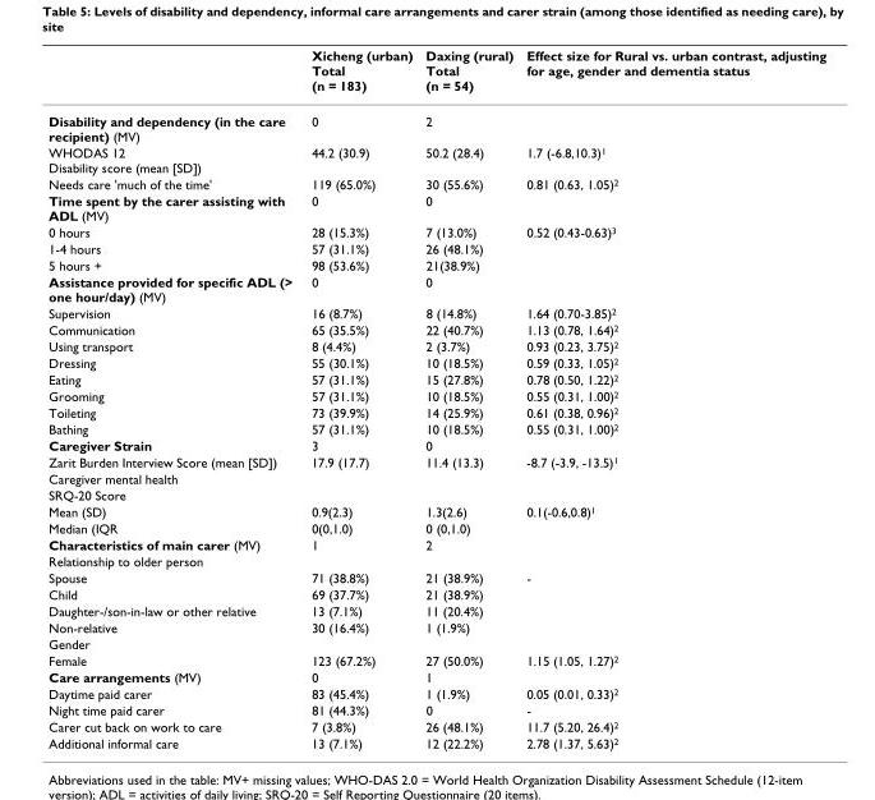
<table><thead><tr><td></td><td>Xicheng (urban) Total (n = 183)</td><td>Daxing (rural) Total (n = 54)</td><td>Effect size for Rural vs. urban contrast, adjusting for age, gender and dementia status</td></tr></thead><tbody><tr><td>Disability and dependency (in the care recipient) (MV)</td><td>0</td><td>2</td><td></td></tr><tr><td>WHODAS 12 Disability score (mean [SD])</td><td>44.2 (30.9)</td><td>50.2 (28.4)</td><td>1.7 (-6.8,10.3)<sup>1</sup></td></tr><tr><td>Needs care &#x27;much of the time&#x27;</td><td>119 (65.0%)</td><td>30 (55.6%)</td><td>0.81 (0.63, 1.05)<sup>2</sup></td></tr><tr><td>Time spent by the carer assisting with ADL (MV)</td><td>0</td><td>0</td><td></td></tr><tr><td>0 hours</td><td>28 (15.3%)</td><td>7 (13.0%)</td><td>0.52 (0.43-0.63)<sup>3</sup></td></tr><tr><td>1-4 hours</td><td>57 (31.1%)</td><td>26 (48.1%)</td><td></td></tr><tr><td>5 hours +</td><td>98 (53.6%)</td><td>21(38.9%)</td><td></td></tr><tr><td>Assistance provided for specific ADL (&gt; one hour/day) (MV)</td><td>0</td><td>0</td><td></td></tr><tr><td>Supervision</td><td>16 (8.7%)</td><td>8 (14.8%)</td><td>1.64 (0.70-3.85)<sup>2</sup></td></tr><tr><td>Communication</td><td>65 (35.5%)</td><td>22 (40.7%)</td><td>1.13 (0.78, 1.64)<sup>2</sup></td></tr><tr><td>Using transport</td><td>8 (4.4%)</td><td>2 (3.7%)</td><td>0.93 (0.23, 3.75)<sup>2</sup></td></tr><tr><td>Dressing</td><td>55 (30.1%)</td><td>10 (18.5%)</td><td>0.59 (0.33, 1.05)<sup>2</sup></td></tr><tr><td>Eating</td><td>57 (31.1%)</td><td>15 (27.8%)</td><td>0.78 (0.50, 1.22)<sup>2</sup></td></tr><tr><td>Grooming</td><td>57 (31.1%)</td><td>10 (18.5%)</td><td>0.55 (0.31, 1.00)<sup>2</sup></td></tr><tr><td>Toileting</td><td>73 (39.9%)</td><td>14 (25.9%)</td><td>0.61 (0.38, 0.96)<sup>2</sup></td></tr><tr><td>Bathing</td><td>57 (31.1%)</td><td>10 (18.5%)</td><td>0.55 (0.31, 1.00)<sup>2</sup></td></tr><tr><td>Caregiver Strain</td><td>3</td><td>0</td><td></td></tr><tr><td>Zarit Burden Interview Score (mean [SD])</td><td>17.9 (17.7)</td><td>11.4 (13.3)</td><td>-8.7 (-3.9, -13.5)<sup>1</sup></td></tr><tr><td colspan="4">Caregiver mental health</td></tr><tr><td colspan="4">SRQ-20 Score</td></tr><tr><td>Mean (SD)</td><td>0.9(2.3)</td><td>1.3(2.6)</td><td>0.1(-0.6,0.8)<sup>1</sup></td></tr><tr><td>Median (IQR</td><td>0(0,1.0)</td><td>0 (0,1.0)</td><td></td></tr><tr><td>Characteristics of main carer (MV)</td><td>1</td><td>2</td><td></td></tr><tr><td colspan="4">Relationship to older person</td></tr><tr><td>Spouse</td><td>71 (38.8%)</td><td>21 (38.9%)</td><td>-</td></tr><tr><td>Child</td><td>69 (37.7%)</td><td>21 (38.9%)</td><td></td></tr><tr><td>Daughter-/son-in-law or other relative</td><td>13 (7.1%)</td><td>11 (20.4%)</td><td></td></tr><tr><td>Non-relative</td><td>30 (16.4%)</td><td>1 (1.9%)</td><td></td></tr><tr><td colspan="4">Gender</td></tr><tr><td>Female</td><td>123 (67.2%)</td><td>27 (50.0%)</td><td>1.15 (1.05, 1.27)<sup>2</sup></td></tr><tr><td>Care arrangements (MV)</td><td>0</td><td>1</td><td></td></tr><tr><td>Daytime paid carer</td><td>83 (45.4%)</td><td>1 (1.9%)</td><td>0.05 (0.01, 0.33)<sup>2</sup></td></tr><tr><td>Night time paid carer</td><td>81 (44.3%)</td><td>0</td><td>-</td></tr><tr><td>Carer cut back on work to care</td><td>7 (3.8%)</td><td>26 (48.1%)</td><td>11.7 (5.20, 26.4)<sup>2</sup></td></tr><tr><td>Additional informal care</td><td>13 (7.1%)</td><td>12 (22.2%)</td><td>2.78 (1.37, 5.63)<sup>2</sup></td></tr></tbody></table>